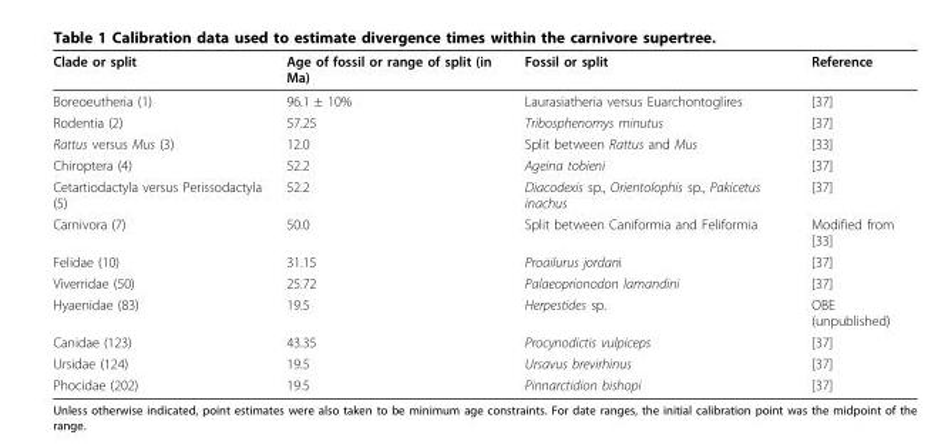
<table><thead><tr><td>Clade or split</td><td>Age of fossil or range of split (in Ma)</td><td>Fossil or split</td><td>Reference</td></tr></thead><tbody><tr><td>Boreoeutheria (1)</td><td>96.1 ± 10%</td><td>Laurasiatheria versus Euarchontoglires</td><td>[37]</td></tr><tr><td>Rodentia (2)</td><td>57.25</td><td>Tribosphenomys minutus</td><td>[37]</td></tr><tr><td>Rattus versus Mus (3)</td><td>12.0</td><td>Split between Rattus and Mus</td><td>[33]</td></tr><tr><td>Chiroptera (4)</td><td>52.2</td><td>Ageina tobieni</td><td>[37]</td></tr><tr><td>Cetartiodactyla versus Perissodactyla (5)</td><td>52.2</td><td>Diacodexis sp., Orientolophis sp., Pakicetus inachus</td><td>[37]</td></tr><tr><td>Carnivora (7)</td><td>50.0</td><td>Split between Caniformia and Feliformia</td><td>Modified from [33]</td></tr><tr><td>Felidae (10)</td><td>31.15</td><td>Proailurus jordani</td><td>[37]</td></tr><tr><td>Viverridae (50)</td><td>25.72</td><td>Palaeoprionodon lamandini</td><td>[37]</td></tr><tr><td>Hyaenidae (83)</td><td>19.5</td><td>Herpestides sp.</td><td>OBE (unpublished)</td></tr><tr><td>Canidae (123)</td><td>43.35</td><td>Procynodictis vulpiceps</td><td>[37]</td></tr><tr><td>Ursidae (124)</td><td>19.5</td><td>Ursavus brevirhinus</td><td>[37]</td></tr><tr><td>Phocidae (202)</td><td>19.5</td><td>Pinnarctidion bishopi</td><td>[37]</td></tr></tbody></table>